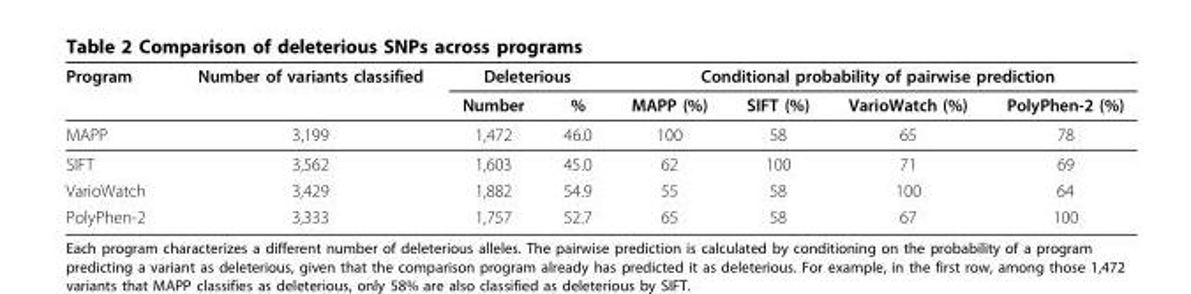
<table><thead><tr><td rowspan="2">Program</td><td rowspan="2">Number of variants classified</td><td colspan="2">Deleterious</td><td colspan="4">Conditional probability of pairwise prediction</td></tr><tr><td>Number</td><td>%</td><td>MAPP (%)</td><td>SIFT (%)</td><td>VarioWatch (%)</td><td>PolyPhen-2 (%)</td></tr></thead><tbody><tr><td>MAPP</td><td>3,199</td><td>1,472</td><td>46.0</td><td>100</td><td>58</td><td>65</td><td>78</td></tr><tr><td>SIFT</td><td>3,562</td><td>1,603</td><td>45.0</td><td>62</td><td>100</td><td>71</td><td>69</td></tr><tr><td>VarioWatch</td><td>3,429</td><td>1,882</td><td>54.9</td><td>55</td><td>58</td><td>100</td><td>64</td></tr><tr><td>PolyPhen-2</td><td>3,333</td><td>1,757</td><td>52.7</td><td>65</td><td>58</td><td>67</td><td>100</td></tr></tbody></table>